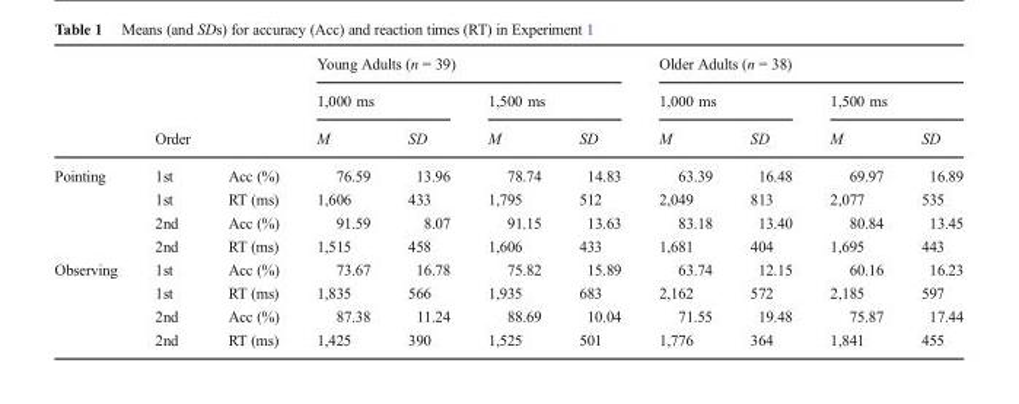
<table><thead><tr><td rowspan="3"></td><td rowspan="3">Order</td><td rowspan="3"></td><td colspan="4">Young Adults (n = 39)</td><td colspan="4">Older Adults (n = 38)</td></tr><tr><td colspan="2">1,000 ms</td><td colspan="2">1,500 ms</td><td colspan="2">1,000 ms</td><td colspan="2">1,500 ms</td></tr><tr><td>M</td><td>SD</td><td>M</td><td>SD</td><td>M</td><td>SD</td><td>M</td><td>SD</td></tr></thead><tbody><tr><td rowspan="4">Pointing</td><td>1st</td><td>Acc (%)</td><td>76.59</td><td>13.96</td><td>78.74</td><td>14.83</td><td>63.39</td><td>16.48</td><td>69.97</td><td>16.89</td></tr><tr><td>1st</td><td>RT (ms)</td><td>1,606</td><td>433</td><td>1,795</td><td>512</td><td>2,049</td><td>813</td><td>2,077</td><td>535</td></tr><tr><td>2nd</td><td>Acc (%)</td><td>91.59</td><td>8.07</td><td>91.15</td><td>13.63</td><td>83.18</td><td>13.40</td><td>80.84</td><td>13.45</td></tr><tr><td>2nd</td><td>RT (ms)</td><td>1,515</td><td>458</td><td>1,606</td><td>433</td><td>1,681</td><td>404</td><td>1,695</td><td>443</td></tr><tr><td rowspan="4">Observing</td><td>1st</td><td>Acc (%)</td><td>73.67</td><td>16.78</td><td>75.82</td><td>15.89</td><td>63.74</td><td>12.15</td><td>60.16</td><td>16.23</td></tr><tr><td>1st</td><td>RT (ms)</td><td>1,835</td><td>566</td><td>1,935</td><td>683</td><td>2,162</td><td>572</td><td>2,185</td><td>597</td></tr><tr><td>2nd</td><td>Acc (%)</td><td>87.38</td><td>11.24</td><td>88.69</td><td>10.04</td><td>71.55</td><td>19.48</td><td>75.87</td><td>17.44</td></tr><tr><td>2nd</td><td>RT (ms)</td><td>1,425</td><td>390</td><td>1,525</td><td>501</td><td>1,776</td><td>364</td><td>1,841</td><td>455</td></tr></tbody></table>